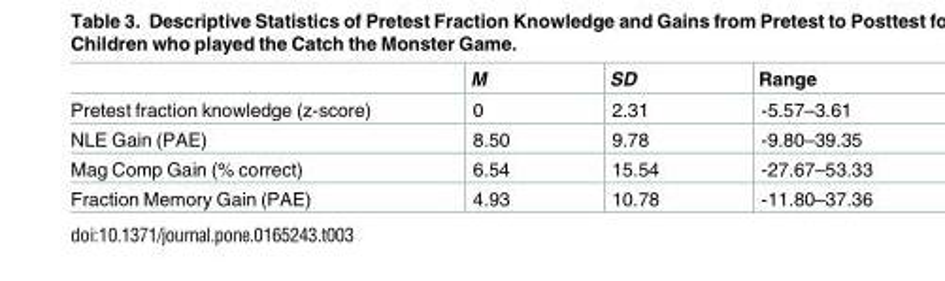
<table><thead><tr><td></td><td>M</td><td>SD</td><td>Range</td></tr></thead><tbody><tr><td>Pretest fraction knowledge (z-score)</td><td>0</td><td>2.31</td><td>-5.57–3.61</td></tr><tr><td>NLE Gain (PAE)</td><td>8.50</td><td>9.78</td><td>-9.80–39.35</td></tr><tr><td>Mag Comp Gain (% correct)</td><td>6.54</td><td>15.54</td><td>-27.67–53.33</td></tr><tr><td>Fraction Memory Gain (PAE)</td><td>4.93</td><td>10.78</td><td>-11.80–37.36</td></tr></tbody></table>